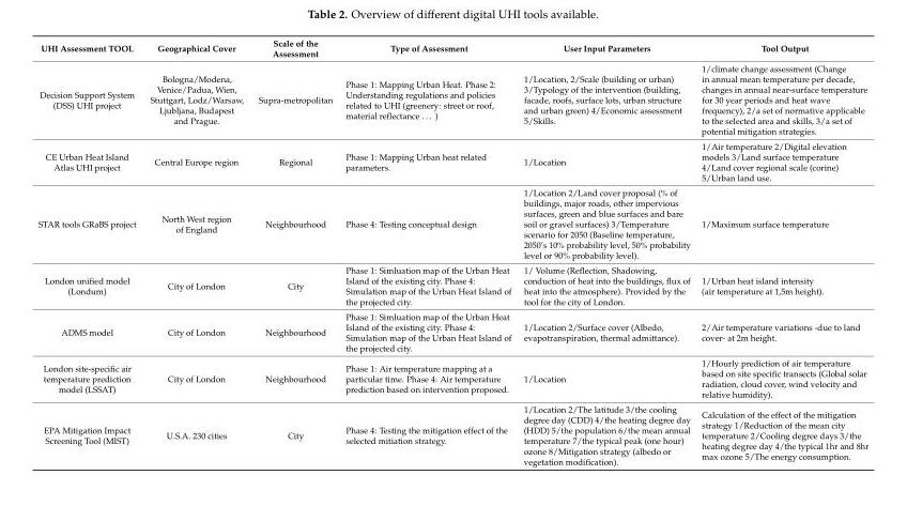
<table><thead><tr><td>UHI Assessment TOOL</td><td>Geographical Cover</td><td>Scale of the Assessment</td><td>Type of Assessment</td><td>User Input Parameters</td><td>Tool Output</td></tr></thead><tbody><tr><td>Decision Support System (DSS) UHI project</td><td>Bologna/Modena, Venice/Padua, Wien, Stuttgart, Lodz/Warsaw, Ljubljana, Budapest and Prague.</td><td>Supra-metropolitan</td><td>Phase 1: Mapping Urban Heat. Phase 2: Understanding regulations and policies related to UHI (greenery: street or roof, material reflectance . . . )</td><td>1/Location, 2/Scale (building or urban) 3/Typology of the intervention (building, facade, roofs, surface lots, urban structure and urban green) 4/Economic assessment 5/Skills.</td><td>1/climate change assessment (Change in annual mean temperature per decade, changes in annual near-surface temperature for 30 year periods and heat wave frequency), 2/a set of normative applicable to the selected area and skills, 3/a set of potential mitigation strategies.</td></tr><tr><td>CE Urban Heat Island Atlas UHI project</td><td>Central Europe region</td><td>Regional</td><td>Phase 1: Mapping Urban heat related parameters.</td><td>1/Location</td><td>1/Air temperature 2/Digital elevation models 3/Land surface temperature 4/Land cover regional scale (corine) 5/Urban land use.</td></tr><tr><td>STAR tools GRaBS project</td><td>North West region of England</td><td>Neighbourhood</td><td>Phase 4: Testing conceptual design</td><td>1/Location 2/Land cover proposal (% of buildings, major roads, other impervious surfaces, green and blue surfaces and bare soil or gravel surfaces) 3/Temperature scenario for 2050 (Baseline temperature, 2050’s 10% probability level, 50% probability level or 90% probability level).</td><td>1/Maximum surface temperature</td></tr><tr><td>London unified model (Londum)</td><td>City of London</td><td>City</td><td>Phase 1: Simluation map of the Urban Heat Island of the existing city. Phase 4: Simulation map of the Urban Heat Island of the projected city.</td><td>1/ Volume (Reflection, Shadowing, conduction of heat into the buildings, flux of heat into the atmosphere). Provided by the tool for the city of London.</td><td>1/Urban heat island intensity (air temperature at 1,5m height).</td></tr><tr><td>ADMS model</td><td>City of London</td><td>Neighbourhood</td><td>Phase 1: Simluation map of the Urban Heat Island of the existing city. Phase 4: Simulation map of the Urban Heat Island of the projected city.</td><td>1/Location 2/Surface cover (Albedo, evapotranspiration, thermal admittance).</td><td>2/Air temperature variations -due to land cover- at 2m height.</td></tr><tr><td>London site-specific air temperature prediction model (LSSAT)</td><td>City of London</td><td>Neighbourhood</td><td>Phase 1: Air temperature mapping at a particular time. Phase 4: Air temperature prediction based on intervention proposed.</td><td>1/Location</td><td>1/Hourly prediction of air temperature based on site specific transects (Global solar radiation, cloud cover, wind velocity and relative humidity).</td></tr><tr><td>EPA Mitigation Impact Screening Tool (MIST)</td><td>U.S.A. 230 cities</td><td>City</td><td>Phase 4: Testing the mitigation effect of the selected mitiation strategy.</td><td>1/Location 2/The latitude 3/the cooling degree day (CDD) 4/the heating degree day (HDD) 5/the population 6/the mean annual temperature 7/the typical peak (one hour) ozone 8/Mitigation strategy (albedo or vegetation modification).</td><td>Calculation of the effect of the mitigation strategy 1/Reduction of the mean city temperature 2/Cooling degree days 3/the heating degree day 4/the typical 1hr and 8hr max ozone 5/The energy consumption.</td></tr></tbody></table>